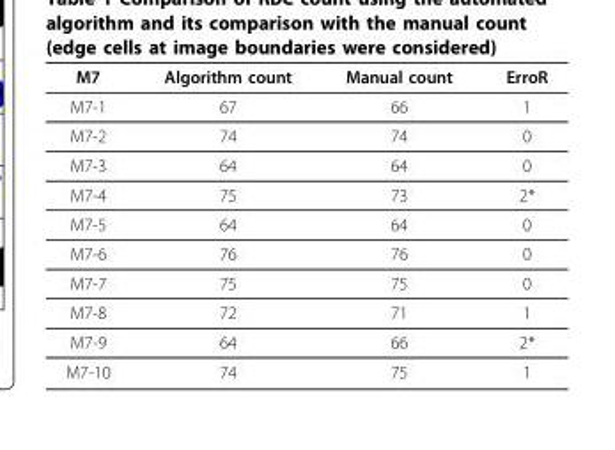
<table><thead><tr><td>M7</td><td>Algorithm count</td><td>Manual count</td><td>ErroR</td></tr></thead><tbody><tr><td>M7-1</td><td>67</td><td>66</td><td>1</td></tr><tr><td>M7-2</td><td>74</td><td>74</td><td>0</td></tr><tr><td>M7-3</td><td>64</td><td>64</td><td>0</td></tr><tr><td>M7-4</td><td>75</td><td>73</td><td>2*</td></tr><tr><td>M7-5</td><td>64</td><td>64</td><td>0</td></tr><tr><td>M7-6</td><td>76</td><td>76</td><td>0</td></tr><tr><td>M7-7</td><td>75</td><td>75</td><td>0</td></tr><tr><td>M7-8</td><td>72</td><td>71</td><td>1</td></tr><tr><td>M7-9</td><td>64</td><td>66</td><td>2*</td></tr><tr><td>M7-10</td><td>74</td><td>75</td><td>1</td></tr></tbody></table>